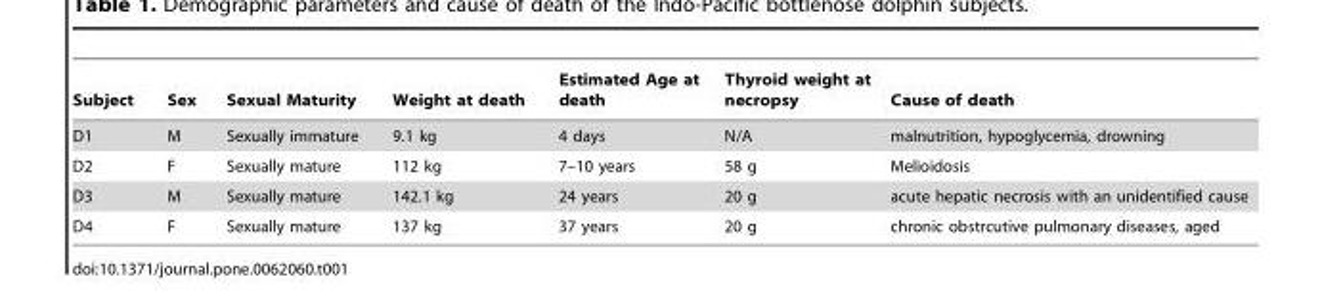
<table><thead><tr><td>Subject</td><td>Sex</td><td>Sexual Maturity</td><td>Weight at death</td><td>Estimated Age at death</td><td>Thyroid weight at necropsy</td><td>Cause of death</td></tr></thead><tbody><tr><td>D1</td><td>M</td><td>Sexually immature</td><td>9.1 kg</td><td>4 days</td><td>N/A</td><td>malnutrition, hypoglycemia, drowning</td></tr><tr><td>D2</td><td>F</td><td>Sexually mature</td><td>112 kg</td><td>7–10 years</td><td>58 g</td><td>Melioidosis</td></tr><tr><td>D3</td><td>M</td><td>Sexually mature</td><td>142.1 kg</td><td>24 years</td><td>20 g</td><td>acute hepatic necrosis with an unidentified cause</td></tr><tr><td>D4</td><td>F</td><td>Sexually mature</td><td>137 kg</td><td>37 years</td><td>20 g</td><td>chronic obstrcutive pulmonary diseases, aged</td></tr></tbody></table>